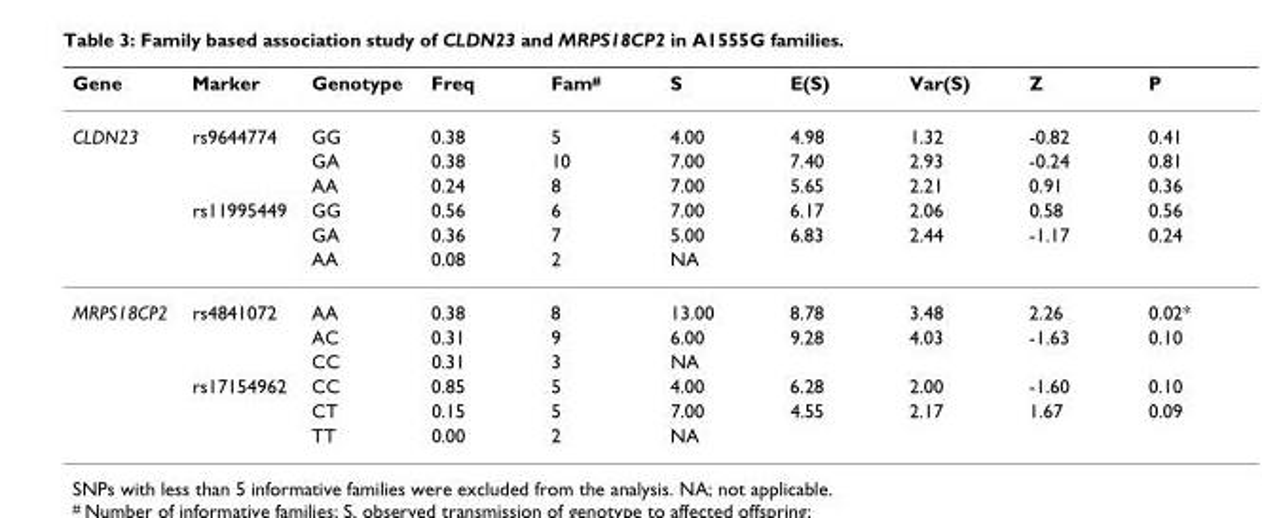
<table><thead><tr><td>Gene</td><td>Marker</td><td>Genotype</td><td>Freq</td><td>Fam<sup>#</sup></td><td>S</td><td>E(S)</td><td>Var(S)</td><td>Z</td><td>P</td></tr></thead><tbody><tr><td rowspan="6">CLDN23</td><td>rs9644774</td><td>GG</td><td>0.38</td><td>5</td><td>4.00</td><td>4.98</td><td>1.32</td><td>-0.82</td><td>0.41</td></tr><tr><td></td><td>GA</td><td>0.38</td><td>10</td><td>7.00</td><td>7.40</td><td>2.93</td><td>-0.24</td><td>0.81</td></tr><tr><td></td><td>AA</td><td>0.24</td><td>8</td><td>7.00</td><td>5.65</td><td>2.21</td><td>0.91</td><td>0.36</td></tr><tr><td>rs11995449</td><td>GG</td><td>0.56</td><td>6</td><td>7.00</td><td>6.17</td><td>2.06</td><td>0.58</td><td>0.56</td></tr><tr><td></td><td>GA</td><td>0.36</td><td>7</td><td>5.00</td><td>6.83</td><td>2.44</td><td>-1.17</td><td>0.24</td></tr><tr><td></td><td>AA</td><td>0.08</td><td>2</td><td>NA</td><td></td><td></td><td></td><td></td></tr><tr><td rowspan="6">MRPS18CP2</td><td>rs4841072</td><td>AA</td><td>0.38</td><td>8</td><td>13.00</td><td>8.78</td><td>3.48</td><td>2.26</td><td>0.02*</td></tr><tr><td></td><td>AC</td><td>0.31</td><td>9</td><td>6.00</td><td>9.28</td><td>4.03</td><td>-1.63</td><td>0.10</td></tr><tr><td></td><td>CC</td><td>0.31</td><td>3</td><td>NA</td><td></td><td></td><td></td><td></td></tr><tr><td>rs17154962</td><td>CC</td><td>0.85</td><td>5</td><td>4.00</td><td>6.28</td><td>2.00</td><td>-1.60</td><td>0.10</td></tr><tr><td></td><td>CT</td><td>0.15</td><td>5</td><td>7.00</td><td>4.55</td><td>2.17</td><td>1.67</td><td>0.09</td></tr><tr><td></td><td>TT</td><td>0.00</td><td>2</td><td>NA</td><td></td><td></td><td></td><td></td></tr></tbody></table>